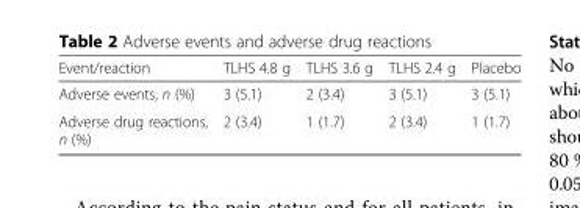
<table><thead><tr><td>Event/reaction</td><td>TLHS 4.8 g</td><td>TLHS 3.6 g</td><td>TLHS 2.4 g</td><td>Placebo</td></tr></thead><tbody><tr><td>Adverse events, n (%)</td><td>3 (5.1)</td><td>2 (3.4)</td><td>3 (5.1)</td><td>3 (5.1)</td></tr><tr><td>Adverse drug reactions, n (%)</td><td>2 (3.4)</td><td>1 (1.7)</td><td>2 (3.4)</td><td>1 (1.7)</td></tr></tbody></table>